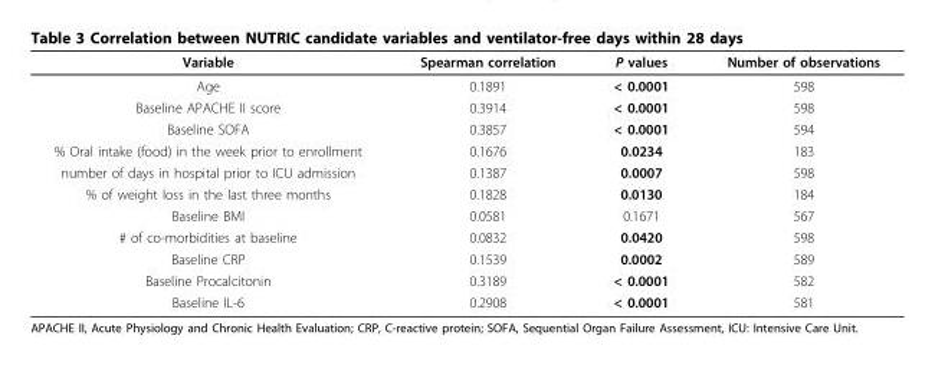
<table><thead><tr><td>Variable</td><td>Spearman correlation</td><td>P values</td><td>Number of observations</td></tr></thead><tbody><tr><td>Age</td><td>0.1891</td><td>&lt; 0.0001</td><td>598</td></tr><tr><td>Baseline APACHE II score</td><td>0.3914</td><td>&lt; 0.0001</td><td>598</td></tr><tr><td>Baseline SOFA</td><td>0.3857</td><td>&lt; 0.0001</td><td>594</td></tr><tr><td>% Oral intake (food) in the week prior to enrollment</td><td>0.1676</td><td>0.0234</td><td>183</td></tr><tr><td>number of days in hospital prior to ICU admission</td><td>0.1387</td><td>0.0007</td><td>598</td></tr><tr><td>% of weight loss in the last three months</td><td>0.1828</td><td>0.0130</td><td>184</td></tr><tr><td>Baseline BMI</td><td>0.0581</td><td>0.1671</td><td>567</td></tr><tr><td># of co-morbidities at baseline</td><td>0.0832</td><td>0.0420</td><td>598</td></tr><tr><td>Baseline CRP</td><td>0.1539</td><td>0.0002</td><td>589</td></tr><tr><td>Baseline Procalcitonin</td><td>0.3189</td><td>&lt; 0.0001</td><td>582</td></tr><tr><td>Baseline IL-6</td><td>0.2908</td><td>&lt; 0.0001</td><td>581</td></tr></tbody></table>